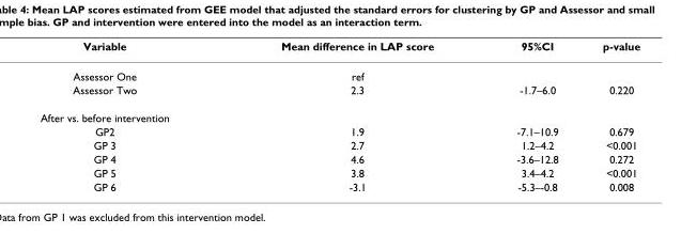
<table><thead><tr><td>Variable</td><td>Mean difference in LAP score</td><td>95%CI</td><td>p-value</td></tr></thead><tbody><tr><td>Assessor One</td><td>ref</td><td></td><td></td></tr><tr><td>Assessor Two</td><td>2.3</td><td>-1.7–6.0</td><td>0.220</td></tr><tr><td colspan="4">After vs. before intervention</td></tr><tr><td>GP2</td><td>1.9</td><td>-7.1–10.9</td><td>0.679</td></tr><tr><td>GP 3</td><td>2.7</td><td>1.2–4.2</td><td>&lt;0.001</td></tr><tr><td>GP 4</td><td>4.6</td><td>-3.6–12.8</td><td>0.272</td></tr><tr><td>GP 5</td><td>3.8</td><td>3.4–4.2</td><td>&lt;0.001</td></tr><tr><td>GP 6</td><td>-3.1</td><td>-5.3–-0.8</td><td>0.008</td></tr></tbody></table>